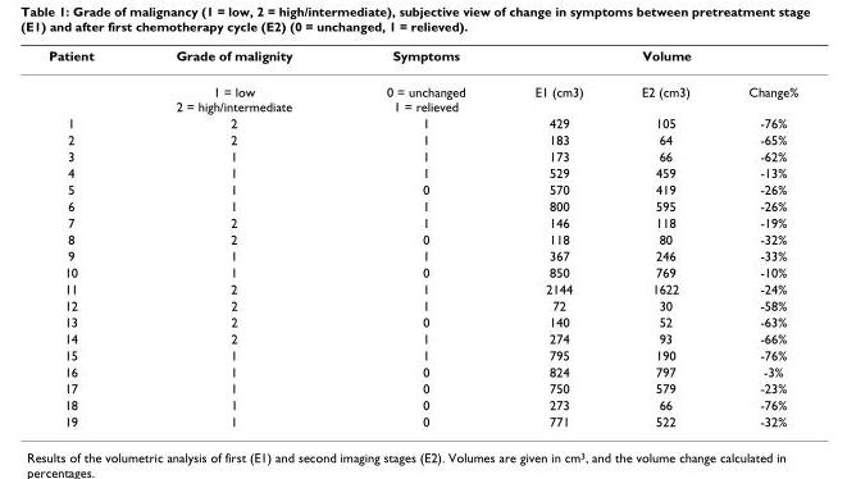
<table><thead><tr><td rowspan="2">Patient</td><td rowspan="2">Grade of malignity 1 = low 2 = high/intermediate</td><td rowspan="2">Symptoms 0 = unchanged 1 = relieved</td><td colspan="3">Volume</td></tr><tr><td>E1 (cm3)</td><td>E2 (cm3)</td><td>Change%</td></tr></thead><tbody><tr><td>1</td><td>2</td><td>1</td><td>429</td><td>105</td><td>-76%</td></tr><tr><td>2</td><td>2</td><td>1</td><td>183</td><td>64</td><td>-65%</td></tr><tr><td>3</td><td>1</td><td>1</td><td>173</td><td>66</td><td>-62%</td></tr><tr><td>4</td><td>1</td><td>1</td><td>529</td><td>459</td><td>-13%</td></tr><tr><td>5</td><td>1</td><td>0</td><td>570</td><td>419</td><td>-26%</td></tr><tr><td>6</td><td>1</td><td>1</td><td>800</td><td>595</td><td>-26%</td></tr><tr><td>7</td><td>2</td><td>1</td><td>146</td><td>118</td><td>-19%</td></tr><tr><td>8</td><td>2</td><td>0</td><td>118</td><td>80</td><td>-32%</td></tr><tr><td>9</td><td>1</td><td>1</td><td>367</td><td>246</td><td>-33%</td></tr><tr><td>10</td><td>1</td><td>0</td><td>850</td><td>769</td><td>-10%</td></tr><tr><td>11</td><td>2</td><td>1</td><td>2144</td><td>1622</td><td>-24%</td></tr><tr><td>12</td><td>2</td><td>1</td><td>72</td><td>30</td><td>-58%</td></tr><tr><td>13</td><td>2</td><td>0</td><td>140</td><td>52</td><td>-63%</td></tr><tr><td>14</td><td>2</td><td>1</td><td>274</td><td>93</td><td>-66%</td></tr><tr><td>15</td><td>1</td><td>1</td><td>795</td><td>190</td><td>-76%</td></tr><tr><td>16</td><td>1</td><td>0</td><td>824</td><td>797</td><td>-3%</td></tr><tr><td>17</td><td>1</td><td>0</td><td>750</td><td>579</td><td>-23%</td></tr><tr><td>18</td><td>1</td><td>0</td><td>273</td><td>66</td><td>-76%</td></tr><tr><td>19</td><td>1</td><td>0</td><td>771</td><td>522</td><td>-32%</td></tr></tbody></table>